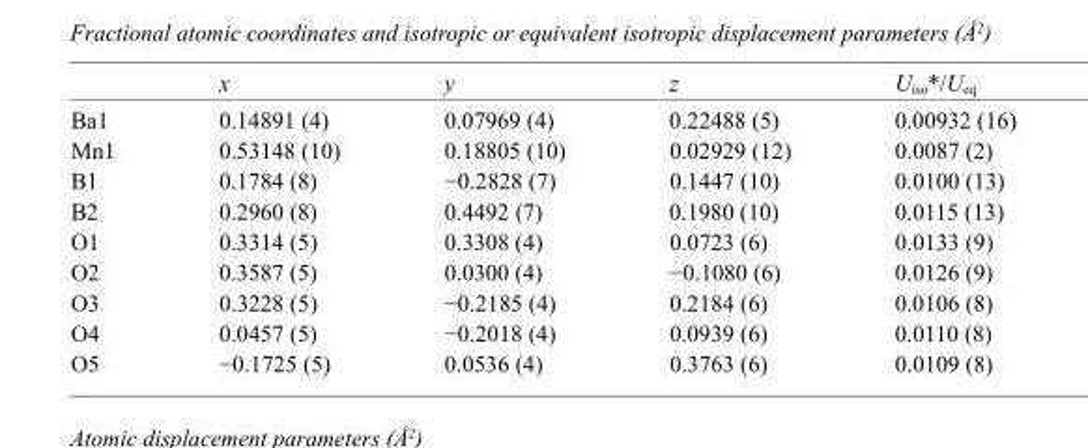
<table><thead><tr><td></td><td>x</td><td>y</td><td>z</td><td>U<sub>iso</sub>*/U<sub>eq</sub></td></tr></thead><tbody><tr><td>Ba1</td><td>0.14891 (4)</td><td>0.07969 (4)</td><td>0.22488 (5)</td><td>0.00932 (16)</td></tr><tr><td>Mn1</td><td>0.53148 (10)</td><td>0.18805 (10)</td><td>0.02929 (12)</td><td>0.0087 (2)</td></tr><tr><td>B1</td><td>0.1784 (8)</td><td>−0.2828 (7)</td><td>0.1447 (10)</td><td>0.0100 (13)</td></tr><tr><td>B2</td><td>0.2960 (8)</td><td>0.4492 (7)</td><td>0.1980 (10)</td><td>0.0115 (13)</td></tr><tr><td>O1</td><td>0.3314 (5)</td><td>0.3308 (4)</td><td>0.0723 (6)</td><td>0.0133 (9)</td></tr><tr><td>O2</td><td>0.3587 (5)</td><td>0.0300 (4)</td><td>−0.1080 (6)</td><td>0.0126 (9)</td></tr><tr><td>O3</td><td>0.3228 (5)</td><td>−0.2185 (4)</td><td>0.2184 (6)</td><td>0.0106 (8)</td></tr><tr><td>O4</td><td>0.0457 (5)</td><td>−0.2018 (4)</td><td>0.0939 (6)</td><td>0.0110 (8)</td></tr><tr><td>O5</td><td>−0.1725 (5)</td><td>0.0536 (4)</td><td>0.3763 (6)</td><td>0.0109 (8)</td></tr></tbody></table>